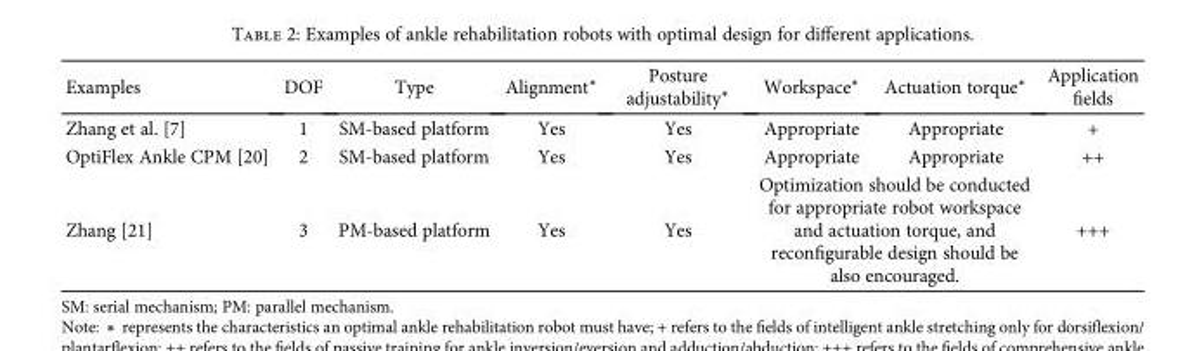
<table><thead><tr><td>Examples</td><td>DOF</td><td>Type</td><td>Alignment∗</td><td>Posture adjustability∗</td><td>Workspace∗</td><td>Actuation torque∗</td><td>Application fields</td></tr></thead><tbody><tr><td>Zhang et al. [7]</td><td>1</td><td>SM-based platform</td><td>Yes</td><td>Yes</td><td>Appropriate</td><td>Appropriate</td><td>+</td></tr><tr><td>OptiFlex Ankle CPM [20]</td><td>2</td><td>SM-based platform</td><td>Yes</td><td>Yes</td><td>Appropriate</td><td>Appropriate</td><td>++</td></tr><tr><td>Zhang [21]</td><td>3</td><td>PM-based platform</td><td>Yes</td><td>Yes</td><td colspan="2">Optimization should be conducted for appropriate robot workspace and actuation torque, and reconfigurable design should be also encouraged.</td><td>+++</td></tr></tbody></table>